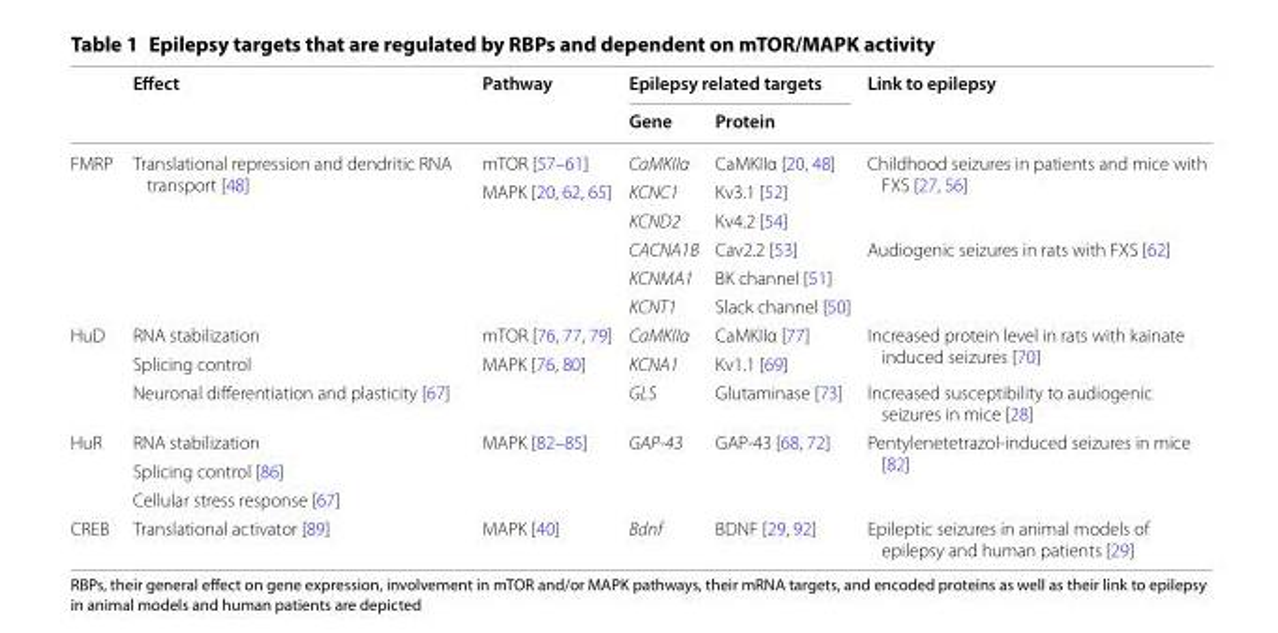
<table><thead><tr><td rowspan="2"></td><td rowspan="2">Effect</td><td rowspan="2">Pathway</td><td colspan="2">Epilepsy related targets</td><td rowspan="2">Link to epilepsy</td></tr><tr><td>Gene</td><td>Protein</td></tr></thead><tbody><tr><td rowspan="6">FMRP</td><td rowspan="6">Translational repression and dendritic RNA transport [48]</td><td>mTOR [57–61]</td><td>CaMKIIα</td><td>CaMKIIα [20, 48]</td><td rowspan="3">Childhood seizures in patients and mice with FXS [27, 56]</td></tr><tr><td rowspan="5">MAPK [20, 62, 65]</td><td>KCNC1</td><td>Kv3.1 [52]</td></tr><tr><td>KCND2</td><td>Kv4.2 [54]</td></tr><tr><td>CACNA1B</td><td>Cav2.2 [53]</td><td rowspan="3">Audiogenic seizures in rats with FXS [62]</td></tr><tr><td>KCNMA1</td><td>BK channel [51]</td></tr><tr><td>KCNT1</td><td>Slack channel [50]</td></tr><tr><td rowspan="3">HuD</td><td>RNA stabilization</td><td>mTOR [76, 77, 79]</td><td>CaMKIIα</td><td>CaMKIIα [77]</td><td rowspan="2">Increased protein level in rats with kainate induced seizures [70]</td></tr><tr><td>Splicing control</td><td rowspan="2">MAPK [76, 80]</td><td>KCNA1</td><td>Kv1.1 [69]</td></tr><tr><td>Neuronal differentiation and plasticity [67]</td><td>GLS</td><td>Glutaminase [73]</td><td>Increased susceptibility to audiogenic seizures in mice [28]</td></tr><tr><td rowspan="3">HuR</td><td>RNA stabilization</td><td rowspan="3">MAPK [82–85]</td><td rowspan="3">GAP-43</td><td rowspan="3">GAP-43 [68, 72]</td><td rowspan="3">Pentylenetetrazol-induced seizures in mice [82]</td></tr><tr><td>Splicing control [86]</td></tr><tr><td>Cellular stress response [67]</td></tr><tr><td>CREB</td><td>Translational activator [89]</td><td>MAPK [40]</td><td>Bdnf</td><td>BDNF [29, 92]</td><td>Epileptic seizures in animal models of epilepsy and human patients [29]</td></tr></tbody></table>